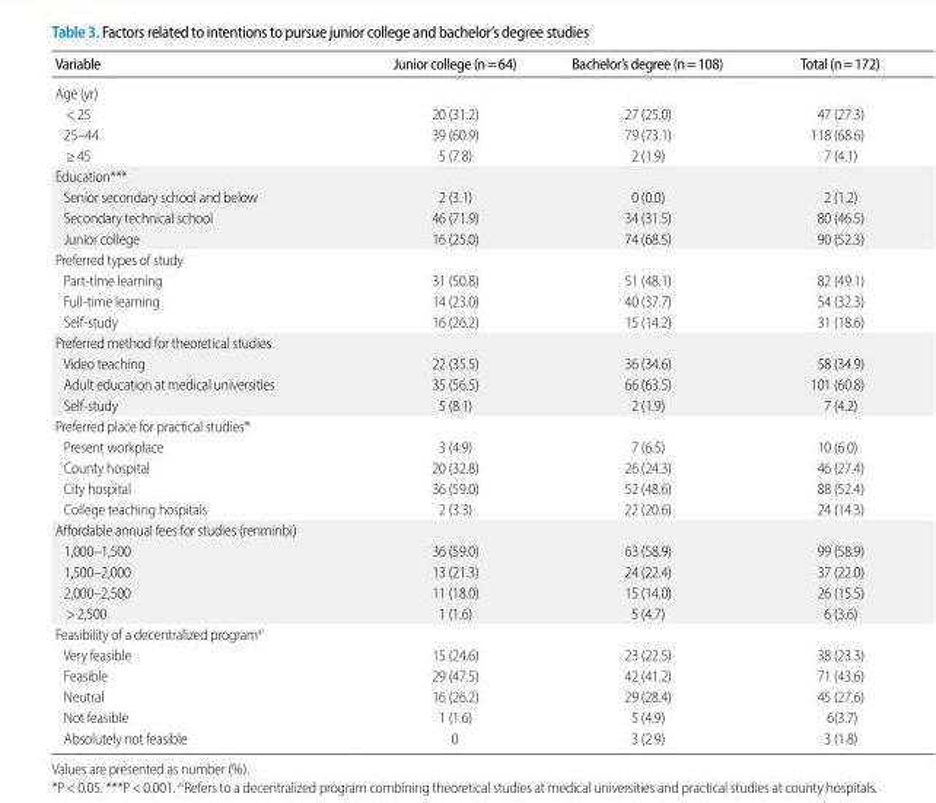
<table><thead><tr><td>Variable</td><td>Junior college (n=64)</td><td>Bachelor’s degree (n=108)</td><td>Total (n=172)</td></tr></thead><tbody><tr><td colspan="4">Age (yr)</td></tr><tr><td>&lt;25</td><td>20 (31.2)</td><td>27 (25.0)</td><td>47 (27.3)</td></tr><tr><td>25–44</td><td>39 (60.9)</td><td>79 (73.1)</td><td>118 (68.6)</td></tr><tr><td>≥45</td><td>5 (7.8)</td><td>2 (1.9)</td><td>7 (4.1)</td></tr><tr><td colspan="4">Education***</td></tr><tr><td>Senior secondary school and below</td><td>2 (3.1)</td><td>0 (0.0)</td><td>2 (1.2)</td></tr><tr><td>Secondary technical school</td><td>46 (71.9)</td><td>34 (31.5)</td><td>80 (46.5)</td></tr><tr><td>Junior college</td><td>16 (25.0)</td><td>74 (68.5)</td><td>90 (52.3)</td></tr><tr><td colspan="4">Preferred types of study</td></tr><tr><td>Part-time learning</td><td>31 (50.8)</td><td>51 (48.1)</td><td>82 (49.1)</td></tr><tr><td>Full-time learning</td><td>14 (23.0)</td><td>40 (37.7)</td><td>54 (32.3)</td></tr><tr><td>Self-study</td><td>16 (26.2)</td><td>15 (14.2)</td><td>31 (18.6)</td></tr><tr><td colspan="4">Preferred method for theoretical studies</td></tr><tr><td>Video teaching</td><td>22 (35.5)</td><td>36 (34.6)</td><td>58 (34.9)</td></tr><tr><td>Adult education at medical universities</td><td>35 (56.5)</td><td>66 (63.5)</td><td>101 (60.8)</td></tr><tr><td>Self-study</td><td>5 (8.1)</td><td>2 (1.9)</td><td>7 (4.2)</td></tr><tr><td colspan="4">Preferred place for practical studies*</td></tr><tr><td>Present workplace</td><td>3 (4.9)</td><td>7 (6.5)</td><td>10 (6.0)</td></tr><tr><td>County hospital</td><td>20 (32.8)</td><td>26 (24.3)</td><td>46 (27.4)</td></tr><tr><td>City hospital</td><td>36 (59.0)</td><td>52 (48.6)</td><td>88 (52.4)</td></tr><tr><td>College teaching hospitals</td><td>2 (3.3)</td><td>22 (20.6)</td><td>24 (14.3)</td></tr><tr><td colspan="4">Affordable annual fees for studies (renminbi)</td></tr><tr><td>1,000–1,500</td><td>36 (59.0)</td><td>63 (58.9)</td><td>99 (58.9)</td></tr><tr><td>1,500–2,000</td><td>13 (21.3)</td><td>24 (22.4)</td><td>37 (22.0)</td></tr><tr><td>2,000–2,500</td><td>11 (18.0)</td><td>15 (14.0)</td><td>26 (15.5)</td></tr><tr><td>&gt;2,500</td><td>1 (1.6)</td><td>5 (4.7)</td><td>6 (3.6)</td></tr><tr><td colspan="4">Feasibility of a decentralized program<sup>a)</sup></td></tr><tr><td>Very feasible</td><td>15 (24.6)</td><td>23 (22.5)</td><td>38 (23.3)</td></tr><tr><td>Feasible</td><td>29 (47.5)</td><td>42 (41.2)</td><td>71 (43.6)</td></tr><tr><td>Neutral</td><td>16 (26.2)</td><td>29 (28.4)</td><td>45 (27.6)</td></tr><tr><td>Not feasible</td><td>1 (1.6)</td><td>5 (4.9)</td><td>6(3.7)</td></tr><tr><td>Absolutely not feasible</td><td>0</td><td>3 (2.9)</td><td>3 (1.8)</td></tr></tbody></table>